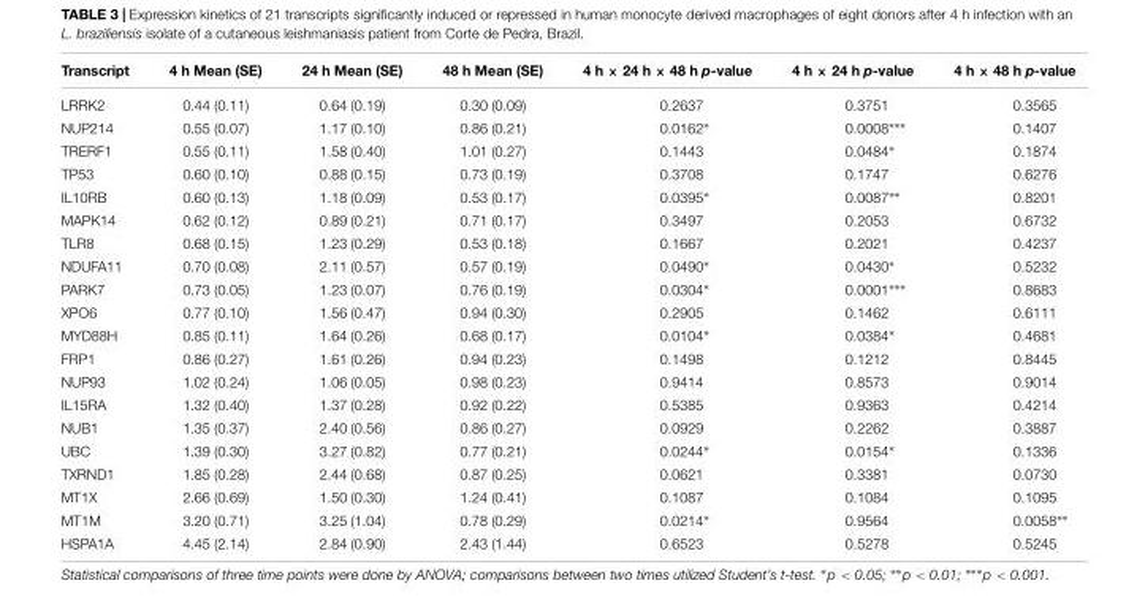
<table><thead><tr><td>Transcript</td><td>4 h Mean (SE)</td><td>24 h Mean (SE)</td><td>48 h Mean (SE)</td><td>4 h × 24 h × 48 h p-value</td><td>4 h × 24 h p-value</td><td>4 h × 48 h p-value</td></tr></thead><tbody><tr><td>LRRK2</td><td>0.44 (0.11)</td><td>0.64 (0.19)</td><td>0.30 (0.09)</td><td>0.2637</td><td>0.3751</td><td>0.3565</td></tr><tr><td>NUP214</td><td>0.55 (0.07)</td><td>1.17 (0.10)</td><td>0.86 (0.21)</td><td>0.0162∗</td><td>0.0008∗∗∗</td><td>0.1407</td></tr><tr><td>TRERF1</td><td>0.55 (0.11)</td><td>1.58 (0.40)</td><td>1.01 (0.27)</td><td>0.1443</td><td>0.0484∗</td><td>0.1874</td></tr><tr><td>TP53</td><td>0.60 (0.10)</td><td>0.88 (0.15)</td><td>0.73 (0.19)</td><td>0.3708</td><td>0.1747</td><td>0.6276</td></tr><tr><td>IL10RB</td><td>0.60 (0.13)</td><td>1.18 (0.09)</td><td>0.53 (0.17)</td><td>0.0395∗</td><td>0.0087∗∗</td><td>0.8201</td></tr><tr><td>MAPK14</td><td>0.62 (0.12)</td><td>0.89 (0.21)</td><td>0.71 (0.17)</td><td>0.3497</td><td>0.2053</td><td>0.6732</td></tr><tr><td>TLR8</td><td>0.68 (0.15)</td><td>1.23 (0.29)</td><td>0.53 (0.18)</td><td>0.1667</td><td>0.2021</td><td>0.4237</td></tr><tr><td>NDUFA11</td><td>0.70 (0.08)</td><td>2.11 (0.57)</td><td>0.57 (0.19)</td><td>0.0490∗</td><td>0.0430∗</td><td>0.5232</td></tr><tr><td>PARK7</td><td>0.73 (0.05)</td><td>1.23 (0.07)</td><td>0.76 (0.19)</td><td>0.0304∗</td><td>0.0001∗∗∗</td><td>0.8683</td></tr><tr><td>XPO6</td><td>0.77 (0.10)</td><td>1.56 (0.47)</td><td>0.94 (0.30)</td><td>0.2905</td><td>0.1462</td><td>0.6111</td></tr><tr><td>MYD88H</td><td>0.85 (0.11)</td><td>1.64 (0.26)</td><td>0.68 (0.17)</td><td>0.0104∗</td><td>0.0384∗</td><td>0.4681</td></tr><tr><td>FRP1</td><td>0.86 (0.27)</td><td>1.61 (0.26)</td><td>0.94 (0.23)</td><td>0.1498</td><td>0.1212</td><td>0.8445</td></tr><tr><td>NUP93</td><td>1.02 (0.24)</td><td>1.06 (0.05)</td><td>0.98 (0.23)</td><td>0.9414</td><td>0.8573</td><td>0.9014</td></tr><tr><td>IL15RA</td><td>1.32 (0.40)</td><td>1.37 (0.28)</td><td>0.92 (0.22)</td><td>0.5385</td><td>0.9363</td><td>0.4214</td></tr><tr><td>NUB1</td><td>1.35 (0.37)</td><td>2.40 (0.56)</td><td>0.86 (0.27)</td><td>0.0929</td><td>0.2262</td><td>0.3887</td></tr><tr><td>UBC</td><td>1.39 (0.30)</td><td>3.27 (0.82)</td><td>0.77 (0.21)</td><td>0.0244∗</td><td>0.0154∗</td><td>0.1336</td></tr><tr><td>TXRND1</td><td>1.85 (0.28)</td><td>2.44 (0.68)</td><td>0.87 (0.25)</td><td>0.0621</td><td>0.3381</td><td>0.0730</td></tr><tr><td>MT1X</td><td>2.66 (0.69)</td><td>1.50 (0.30)</td><td>1.24 (0.41)</td><td>0.1087</td><td>0.1084</td><td>0.1095</td></tr><tr><td>MT1M</td><td>3.20 (0.71)</td><td>3.25 (1.04)</td><td>0.78 (0.29)</td><td>0.0214∗</td><td>0.9564</td><td>0.0058∗∗</td></tr><tr><td>HSPA1A</td><td>4.45 (2.14)</td><td>2.84 (0.90)</td><td>2.43 (1.44)</td><td>0.6523</td><td>0.5278</td><td>0.5245</td></tr></tbody></table>